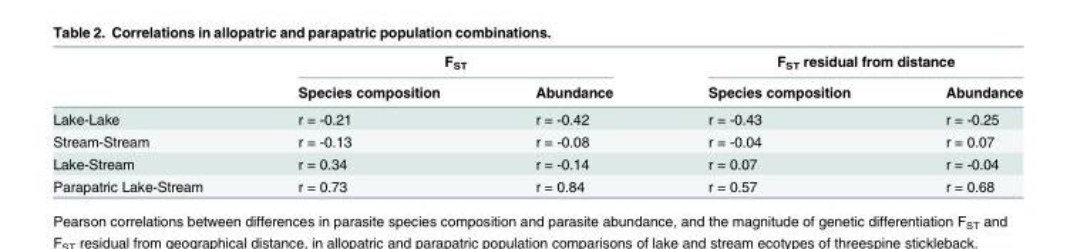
<table><thead><tr><td rowspan="2"></td><td colspan="2">F<sub>ST</sub></td><td colspan="2">F<sub>ST</sub> residual from distance</td></tr><tr><td>Species composition</td><td>Abundance</td><td>Species composition</td><td>Abundance</td></tr></thead><tbody><tr><td>Lake-Lake</td><td>r = -0.21</td><td>r = -0.42</td><td>r = -0.43</td><td>r = -0.25</td></tr><tr><td>Stream-Stream</td><td>r = -0.13</td><td>r = -0.08</td><td>r = -0.04</td><td>r = 0.07</td></tr><tr><td>Lake-Stream</td><td>r = 0.34</td><td>r = -0.14</td><td>r = 0.07</td><td>r = -0.04</td></tr><tr><td>Parapatric Lake-Stream</td><td>r = 0.73</td><td>r = 0.84</td><td>r = 0.57</td><td>r = 0.68</td></tr></tbody></table>